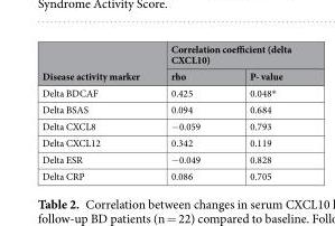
<table><thead><tr><td rowspan="2">Disease activity marker</td><td colspan="2">Correlation coefficient (delta CXCL10)</td></tr><tr><td>rho</td><td>P- value</td></tr></thead><tbody><tr><td>Delta BDCAF</td><td>0.425</td><td>0.048*</td></tr><tr><td>Delta BSAS</td><td>0.094</td><td>0.684</td></tr><tr><td>Delta CXCL8</td><td>−0.059</td><td>0.793</td></tr><tr><td>Delta CXCL12</td><td>0.342</td><td>0.119</td></tr><tr><td>Delta ESR</td><td>−0.049</td><td>0.828</td></tr><tr><td>Delta CRP</td><td>0.086</td><td>0.705</td></tr></tbody></table>